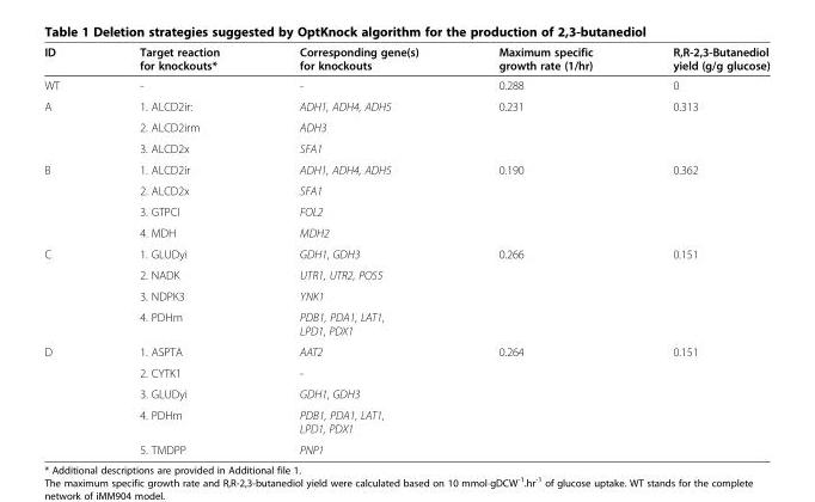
<table><thead><tr><td>ID</td><td>Target reaction for knockouts*</td><td>Corresponding gene(s) for knockouts</td><td>Maximum specific growth rate (1/hr)</td><td>R,R-2,3-Butanediol yield (g/g glucose)</td></tr></thead><tbody><tr><td>WT</td><td>-</td><td>-</td><td>0.288</td><td>0</td></tr><tr><td rowspan="3">A</td><td>1. ALCD2ir:</td><td>ADH1, ADH4, ADH5</td><td>0.231</td><td>0.313</td></tr><tr><td>2. ALCD2irm</td><td>ADH3</td><td></td><td></td></tr><tr><td>3. ALCD2x</td><td>SFA1</td><td></td><td></td></tr><tr><td rowspan="4">B</td><td>1. ALCD2ir</td><td>ADH1, ADH4, ADH5</td><td>0.190</td><td>0.362</td></tr><tr><td>2. ALCD2x</td><td>SFA1</td><td></td><td></td></tr><tr><td>3. GTPCI</td><td>FOL2</td><td></td><td></td></tr><tr><td>4. MDH</td><td>MDH2</td><td></td><td></td></tr><tr><td rowspan="4">C</td><td>1. GLUDyi</td><td>GDH1, GDH3</td><td>0.266</td><td>0.151</td></tr><tr><td>2. NADK</td><td>UTR1, UTR2, POS5</td><td></td><td></td></tr><tr><td>3. NDPK3</td><td>YNK1</td><td></td><td></td></tr><tr><td>4. PDHm</td><td>PDB1, PDA1, LAT1, LPD1, PDX1</td><td></td><td></td></tr><tr><td rowspan="5">D</td><td>1. ASPTA</td><td>AAT2</td><td>0.264</td><td>0.151</td></tr><tr><td>2. CYTK1</td><td>-</td><td></td><td></td></tr><tr><td>3. GLUDyi</td><td>GDH1, GDH3</td><td></td><td></td></tr><tr><td>4. PDHm</td><td>PDB1, PDA1, LAT1, LPD1, PDX1</td><td></td><td></td></tr><tr><td>5. TMDPP</td><td>PNP1</td><td></td><td></td></tr></tbody></table>